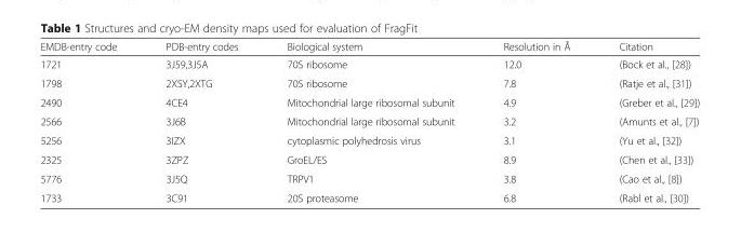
<table><thead><tr><td>EMDB-entry code</td><td>PDB-entry codes</td><td>Biological system</td><td>Resolution in Å</td><td>Citation</td></tr></thead><tbody><tr><td>1721</td><td>3J59,3J5A</td><td>70S ribosome</td><td>12.0</td><td>(Bock et al., [28])</td></tr><tr><td>1798</td><td>2XSY,2XTG</td><td>70S ribosome</td><td>7.8</td><td>(Ratje et al., [31])</td></tr><tr><td>2490</td><td>4CE4</td><td>Mitochondrial large ribosomal subunit</td><td>4.9</td><td>(Greber et al., [29])</td></tr><tr><td>2566</td><td>3J6B</td><td>Mitochondrial large ribosomal subunit</td><td>3.2</td><td>(Amunts et al., [7])</td></tr><tr><td>5256</td><td>3IZX</td><td>cytoplasmic polyhedrosis virus</td><td>3.1</td><td>(Yu et al., [32])</td></tr><tr><td>2325</td><td>3ZPZ</td><td>GroEL/ES</td><td>8.9</td><td>(Chen et al., [33])</td></tr><tr><td>5776</td><td>3J5Q</td><td>TRPV1</td><td>3.8</td><td>(Cao et al., [8])</td></tr><tr><td>1733</td><td>3C91</td><td>20S proteasome</td><td>6.8</td><td>(Rabl et al., [30])</td></tr></tbody></table>